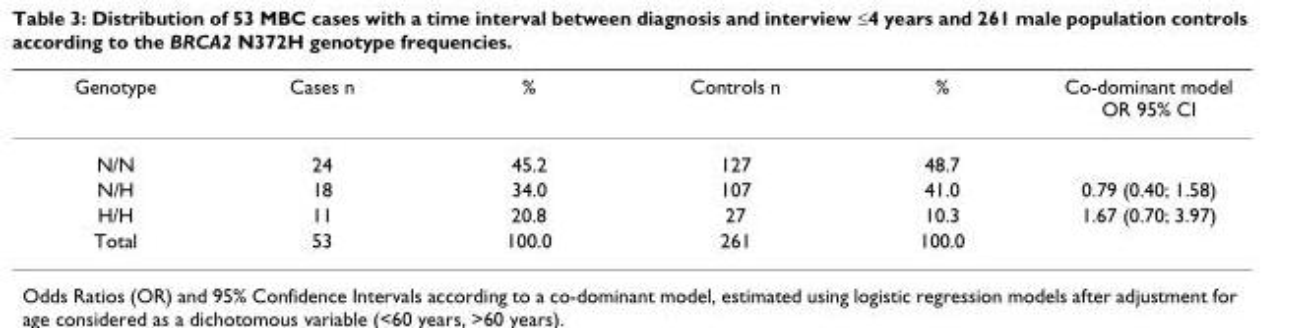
<table><thead><tr><td>Genotype</td><td>Cases n</td><td>%</td><td>Controls n</td><td>%</td><td>Co-dominant model OR 95% CI</td></tr></thead><tbody><tr><td>N/N</td><td>24</td><td>45.2</td><td>127</td><td>48.7</td><td></td></tr><tr><td>N/H</td><td>18</td><td>34.0</td><td>107</td><td>41.0</td><td>0.79 (0.40; 1.58)</td></tr><tr><td>H/H</td><td>11</td><td>20.8</td><td>27</td><td>10.3</td><td>1.67 (0.70; 3.97)</td></tr><tr><td>Total</td><td>53</td><td>100.0</td><td>261</td><td>100.0</td><td></td></tr></tbody></table>